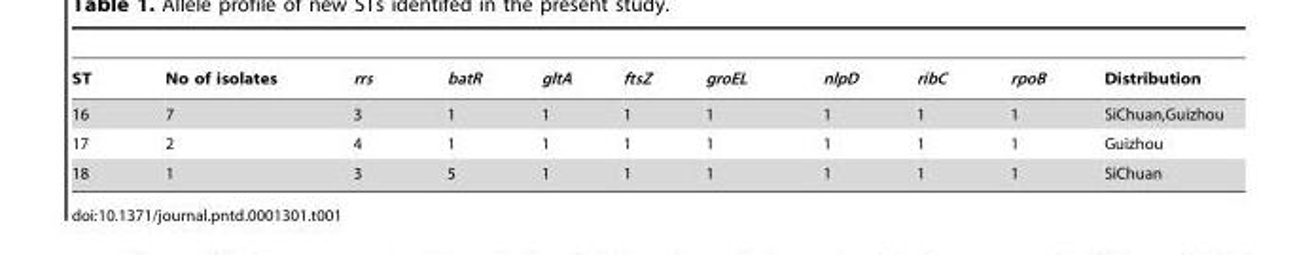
<table><thead><tr><td>ST</td><td>No of isolates</td><td>rrs</td><td>batR</td><td>gltA</td><td>ftsZ</td><td>groEL</td><td>nlpD</td><td>ribC</td><td>rpoB</td><td>Distribution</td></tr></thead><tbody><tr><td>16</td><td>7</td><td>3</td><td>1</td><td>1</td><td>1</td><td>1</td><td>1</td><td>1</td><td>1</td><td>SiChuan,Guizhou</td></tr><tr><td>17</td><td>2</td><td>4</td><td>1</td><td>1</td><td>1</td><td>1</td><td>1</td><td>1</td><td>1</td><td>Guizhou</td></tr><tr><td>18</td><td>1</td><td>3</td><td>5</td><td>1</td><td>1</td><td>1</td><td>1</td><td>1</td><td>1</td><td>SiChuan</td></tr></tbody></table>